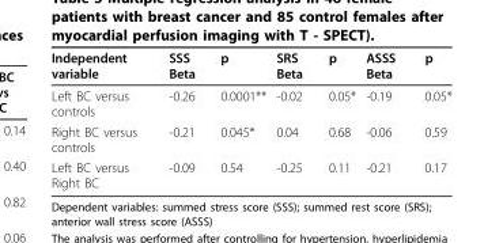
<table><thead><tr><td>Independent variable</td><td>SSS Beta</td><td>p</td><td>SRS Beta</td><td>p</td><td>ASSS Beta</td><td>p</td></tr></thead><tbody><tr><td>Left BC versus controls</td><td>-0.26</td><td>0.0001**</td><td>-0.02</td><td>0.05*</td><td>-0.19</td><td>0.05*</td></tr><tr><td>Right BC versus controls</td><td>-0.21</td><td>0.045*</td><td>0.04</td><td>0.68</td><td>-0.06</td><td>0.59</td></tr><tr><td>Left BC versus Right BC</td><td>-0.09</td><td>0.54</td><td>-0.25</td><td>0.11</td><td>-0.21</td><td>0.17</td></tr></tbody></table>